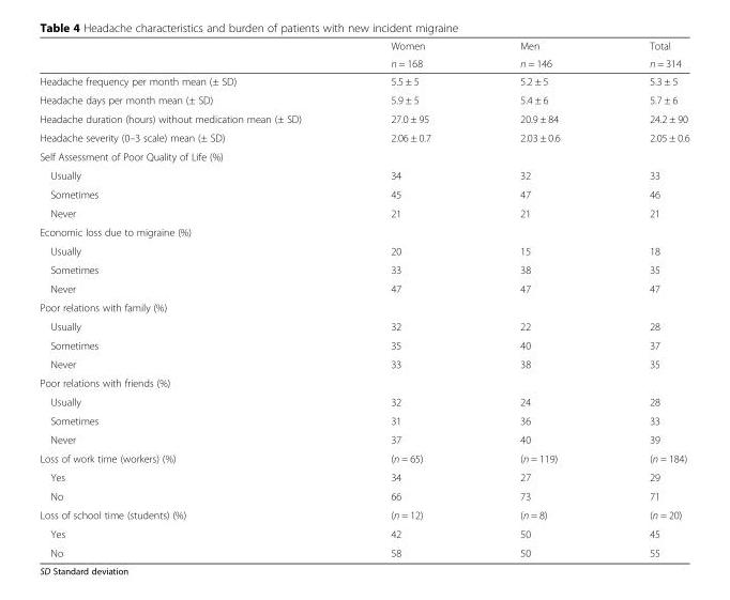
<table><thead><tr><td rowspan="2"></td><td rowspan="2">Women n = 168</td><td rowspan="2">Men n = 146</td><td rowspan="2">Total n = 314</td></tr><tr></tr></thead><tbody><tr><td>Headache frequency per month mean (± SD)</td><td>5.5 ± 5</td><td>5.2 ± 5</td><td>5.3 ± 5</td></tr><tr><td>Headache days per month mean (± SD)</td><td>5.9 ± 5</td><td>5.4 ± 6</td><td>5.7 ± 6</td></tr><tr><td>Headache duration (hours) without medication mean (± SD)</td><td>27.0 ± 95</td><td>20.9 ± 84</td><td>24.2 ± 90</td></tr><tr><td>Headache severity (0–3 scale) mean (± SD)</td><td>2.06 ± 0.7</td><td>2.03 ± 0.6</td><td>2.05 ± 0.6</td></tr><tr><td colspan="4">Self Assessment of Poor Quality of Life (%)</td></tr><tr><td>Usually</td><td>34</td><td>32</td><td>33</td></tr><tr><td>Sometimes</td><td>45</td><td>47</td><td>46</td></tr><tr><td>Never</td><td>21</td><td>21</td><td>21</td></tr><tr><td colspan="4">Economic loss due to migraine (%)</td></tr><tr><td>Usually</td><td>20</td><td>15</td><td>18</td></tr><tr><td>Sometimes</td><td>33</td><td>38</td><td>35</td></tr><tr><td>Never</td><td>47</td><td>47</td><td>47</td></tr><tr><td colspan="4">Poor relations with family (%)</td></tr><tr><td>Usually</td><td>32</td><td>22</td><td>28</td></tr><tr><td>Sometimes</td><td>35</td><td>40</td><td>37</td></tr><tr><td>Never</td><td>33</td><td>38</td><td>35</td></tr><tr><td colspan="4">Poor relations with friends (%)</td></tr><tr><td>Usually</td><td>32</td><td>24</td><td>28</td></tr><tr><td>Sometimes</td><td>31</td><td>36</td><td>33</td></tr><tr><td>Never</td><td>37</td><td>40</td><td>39</td></tr><tr><td>Loss of work time (workers) (%)</td><td>(n = 65)</td><td>(n = 119)</td><td>(n = 184)</td></tr><tr><td>Yes</td><td>34</td><td>27</td><td>29</td></tr><tr><td>No</td><td>66</td><td>73</td><td>71</td></tr><tr><td>Loss of school time (students) (%)</td><td>(n = 12)</td><td>(n = 8)</td><td>(n = 20)</td></tr><tr><td>Yes</td><td>42</td><td>50</td><td>45</td></tr><tr><td>No</td><td>58</td><td>50</td><td>55</td></tr></tbody></table>